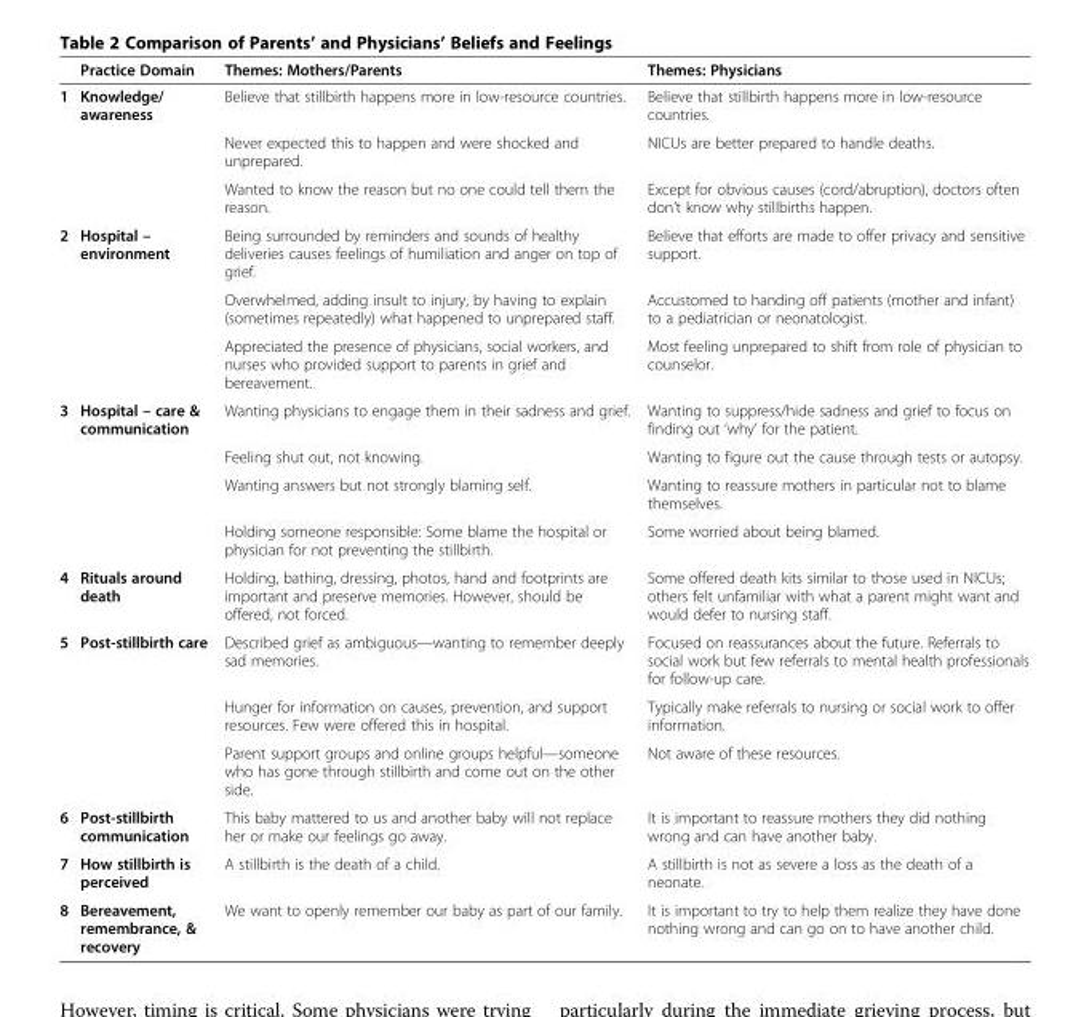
<table><thead><tr><td></td><td>Practice Domain</td><td>Themes: Mothers/Parents</td><td>Themes: Physicians</td></tr></thead><tbody><tr><td rowspan="3">1</td><td>Knowledge/ awareness</td><td>Believe that stillbirth happens more in low-resource countries.</td><td>Believe that stillbirth happens more in low-resource countries.</td></tr><tr><td></td><td>Never expected this to happen and were shocked and unprepared.</td><td>NICUs are better prepared to handle deaths.</td></tr><tr><td></td><td>Wanted to know the reason but no one could tell them the reason.</td><td>Except for obvious causes (cord/abruption), doctors often don’t know why stillbirths happen.</td></tr><tr><td rowspan="3">2</td><td>Hospital – environment</td><td>Being surrounded by reminders and sounds of healthy deliveries causes feelings of humiliation and anger on top of grief.</td><td>Believe that efforts are made to offer privacy and sensitive support.</td></tr><tr><td></td><td>Overwhelmed, adding insult to injury, by having to explain (sometimes repeatedly) what happened to unprepared staff.</td><td>Accustomed to handing off patients (mother and infant) to a pediatrician or neonatologist.</td></tr><tr><td></td><td>Appreciated the presence of physicians, social workers, and nurses who provided support to parents in grief and bereavement.</td><td>Most feeling unprepared to shift from role of physician to counselor.</td></tr><tr><td rowspan="4">3</td><td>Hospital – care &amp; communication</td><td>Wanting physicians to engage them in their sadness and grief.</td><td>Wanting to suppress/hide sadness and grief to focus on finding out ‘why’ for the patient.</td></tr><tr><td></td><td>Feeling shut out, not knowing.</td><td>Wanting to figure out the cause through tests or autopsy.</td></tr><tr><td></td><td>Wanting answers but not strongly blaming self.</td><td>Wanting to reassure mothers in particular not to blame themselves.</td></tr><tr><td></td><td>Holding someone responsible: Some blame the hospital or physician for not preventing the stillbirth.</td><td>Some worried about being blamed.</td></tr><tr><td>4</td><td>Rituals around death</td><td>Holding, bathing, dressing, photos, hand and footprints are important and preserve memories. However, should be offered, not forced.</td><td>Some offered death kits similar to those used in NICUs; others felt unfamiliar with what a parent might want and would defer to nursing staff.</td></tr><tr><td rowspan="3">5</td><td>Post-stillbirth care</td><td>Described grief as ambiguous—wanting to remember deeply sad memories.</td><td>Focused on reassurances about the future. Referrals to social work but few referrals to mental health professionals for follow-up care.</td></tr><tr><td></td><td>Hunger for information on causes, prevention, and support resources. Few were offered this in hospital.</td><td>Typically make referrals to nursing or social work to offer information.</td></tr><tr><td></td><td>Parent support groups and online groups helpful—someone who has gone through stillbirth and come out on the other side.</td><td>Not aware of these resources.</td></tr><tr><td>6</td><td>Post-stillbirth communication</td><td>This baby mattered to us and another baby will not replace her or make our feelings go away.</td><td>It is important to reassure mothers they did nothing wrong and can have another baby.</td></tr><tr><td>7</td><td>How stillbirth is perceived</td><td>A stillbirth is the death of a child.</td><td>A stillbirth is not as severe a loss as the death of a neonate.</td></tr><tr><td>8</td><td>Bereavement, remembrance, &amp; recovery</td><td>We want to openly remember our baby as part of our family.</td><td>It is important to try to help them realize they have done nothing wrong and can go on to have another child.</td></tr></tbody></table>